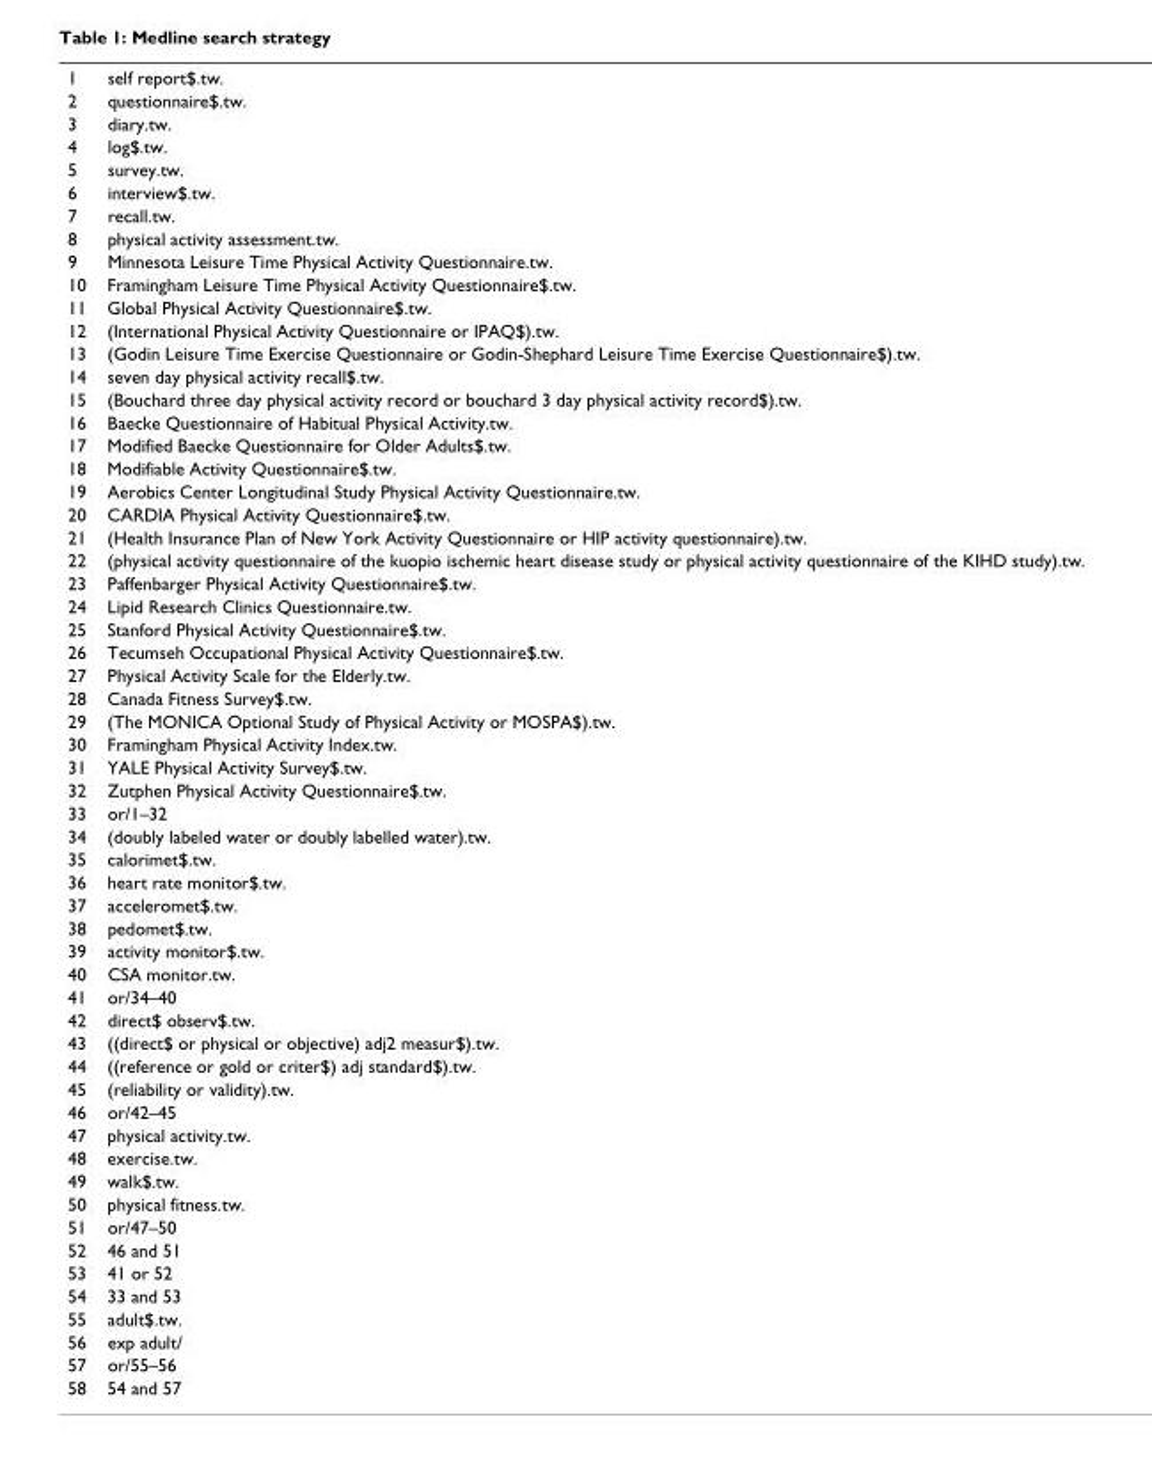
<table><tbody><tr><td>1</td><td>self report$.tw.</td></tr><tr><td>2</td><td>questionnaire$.tw.</td></tr><tr><td>3</td><td>diary.tw.</td></tr><tr><td>4</td><td>log$.tw.</td></tr><tr><td>5</td><td>survey.tw.</td></tr><tr><td>6</td><td>interview$.tw.</td></tr><tr><td>7</td><td>recall.tw.</td></tr><tr><td>8</td><td>physical activity assessment.tw.</td></tr><tr><td>9</td><td>Minnesota Leisure Time Physical Activity Questionnaire.tw.</td></tr><tr><td>10</td><td>Framingham Leisure Time Physical Activity Questionnaire$.tw.</td></tr><tr><td>11</td><td>Global Physical Activity Questionnaire$.tw.</td></tr><tr><td>12</td><td>(International Physical Activity Questionnaire or IPAQ$).tw.</td></tr><tr><td>13</td><td>(Godin Leisure Time Exercise Questionnaire or Godin-Shephard Leisure Time Exercise Questionnaire$).tw.</td></tr><tr><td>14</td><td>seven day physical activity recall$.tw.</td></tr><tr><td>15</td><td>(Bouchard three day physical activity record or bouchard 3 day physical activity record$).tw.</td></tr><tr><td>16</td><td>Baecke Questionnaire of Habitual Physical Activity.tw.</td></tr><tr><td>17</td><td>Modified Baecke Questionnaire for Older Adults$.tw.</td></tr><tr><td>18</td><td>Modifiable Activity Questionnaire$.tw.</td></tr><tr><td>19</td><td>Aerobics Center Longitudinal Study Physical Activity Questionnaire.tw.</td></tr><tr><td>20</td><td>CARDIA Physical Activity Questionnaire$.tw.</td></tr><tr><td>21</td><td>(Health Insurance Plan of New York Activity Questionnaire or HIP activity questionnaire).tw.</td></tr><tr><td>22</td><td>(physical activity questionnaire of the kuopio ischemic heart disease study or physical activity questionnaire of the KIHD study).tw.</td></tr><tr><td>23</td><td>Paffenbarger Physical Activity Questionnaire$.tw.</td></tr><tr><td>24</td><td>Lipid Research Clinics Questionnaire.tw.</td></tr><tr><td>25</td><td>Stanford Physical Activity Questionnaire$.tw.</td></tr><tr><td>26</td><td>Tecumseh Occupational Physical Activity Questionnaire$.tw.</td></tr><tr><td>27</td><td>Physical Activity Scale for the Elderly.tw.</td></tr><tr><td>28</td><td>Canada Fitness Survey$.tw.</td></tr><tr><td>29</td><td>(The MONICA Optional Study of Physical Activity or MOSPA$).tw.</td></tr><tr><td>30</td><td>Framingham Physical Activity Index.tw.</td></tr><tr><td>31</td><td>YALE Physical Activity Survey$.tw.</td></tr><tr><td>32</td><td>Zutphen Physical Activity Questionnaire$.tw.</td></tr><tr><td>33</td><td>or/1–32</td></tr><tr><td>34</td><td>(doubly labeled water or doubly labelled water).tw.</td></tr><tr><td>35</td><td>calorimet$.tw.</td></tr><tr><td>36</td><td>heart rate monitor$.tw.</td></tr><tr><td>37</td><td>acceleromet$.tw.</td></tr><tr><td>38</td><td>pedomet$.tw.</td></tr><tr><td>39</td><td>activity monitor$.tw.</td></tr><tr><td>40</td><td>CSA monitor.tw.</td></tr><tr><td>41</td><td>or/34–40</td></tr><tr><td>42</td><td>direct$ observ$.tw.</td></tr><tr><td>43</td><td>((direct$ or physical or objective) adj2 measur$).tw.</td></tr><tr><td>44</td><td>((reference or gold or criter$) adj standard$).tw.</td></tr><tr><td>45</td><td>(reliability or validity).tw.</td></tr><tr><td>46</td><td>or/42–45</td></tr><tr><td>47</td><td>physical activity.tw.</td></tr><tr><td>48</td><td>exercise.tw.</td></tr><tr><td>49</td><td>walk$.tw.</td></tr><tr><td>50</td><td>physical fitness.tw.</td></tr><tr><td>51</td><td>or/47–50</td></tr><tr><td>52</td><td>46 and 51</td></tr><tr><td>53</td><td>41 or 52</td></tr><tr><td>54</td><td>33 and 53</td></tr><tr><td>55</td><td>adult$.tw.</td></tr><tr><td>56</td><td>exp adult/</td></tr><tr><td>57</td><td>or/55–56</td></tr><tr><td>58</td><td>54 and 57</td></tr></tbody></table>